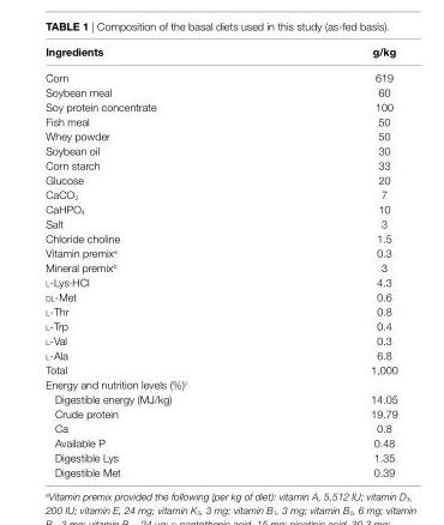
<table><thead><tr><td>ingredients</td><td>g/kg</td></tr></thead><tbody><tr><td>Corn</td><td>619</td></tr><tr><td>Soybean meal</td><td>60</td></tr><tr><td>Soy protein concentrate</td><td>100</td></tr><tr><td>Fish meal</td><td>50</td></tr><tr><td>Whey powder</td><td>50</td></tr><tr><td>Soybean oil</td><td>30</td></tr><tr><td>Corn starch</td><td>33</td></tr><tr><td>Glucose</td><td>20</td></tr><tr><td>CaCO<sub>3</sub></td><td>7</td></tr><tr><td>CaHPO<sub>4</sub></td><td>10</td></tr><tr><td>Salt</td><td>3</td></tr><tr><td>Chloride choline</td><td>1.5</td></tr><tr><td>Vitamin premix<sup>a</sup></td><td>0.3</td></tr><tr><td>Mineral premix<sup>b</sup></td><td>3</td></tr><tr><td>l-Lys·HCl</td><td>4.3</td></tr><tr><td>dl-Met</td><td>0.6</td></tr><tr><td>l-Thr</td><td>0.8</td></tr><tr><td>l-Trp</td><td>0.4</td></tr><tr><td>l-Val</td><td>0.3</td></tr><tr><td>l-Ala</td><td>6.8</td></tr><tr><td>Total</td><td>1,000</td></tr><tr><td colspan="2">Energy and nutrition levels (%)<sup>c</sup></td></tr><tr><td>Digestible energy (MJ/kg)</td><td>14.05</td></tr><tr><td>Crude protein</td><td>19.79</td></tr><tr><td>Ca</td><td>0.8</td></tr><tr><td>Available P</td><td>0.48</td></tr><tr><td>Digestible Lys</td><td>1.35</td></tr><tr><td>Digestible Met</td><td>0.39</td></tr></tbody></table>